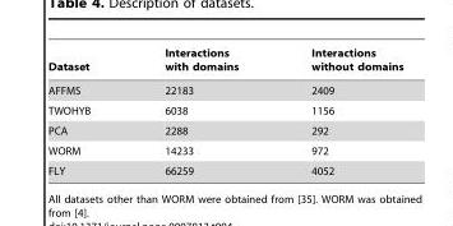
<table><thead><tr><td>Dataset</td><td>Interactions with domains</td><td>Interactions without domains</td></tr></thead><tbody><tr><td>AFFMS</td><td>22183</td><td>2409</td></tr><tr><td>TWOHYB</td><td>6038</td><td>1156</td></tr><tr><td>PCA</td><td>2288</td><td>292</td></tr><tr><td>WORM</td><td>14233</td><td>972</td></tr><tr><td>FLY</td><td>66259</td><td>4052</td></tr></tbody></table>